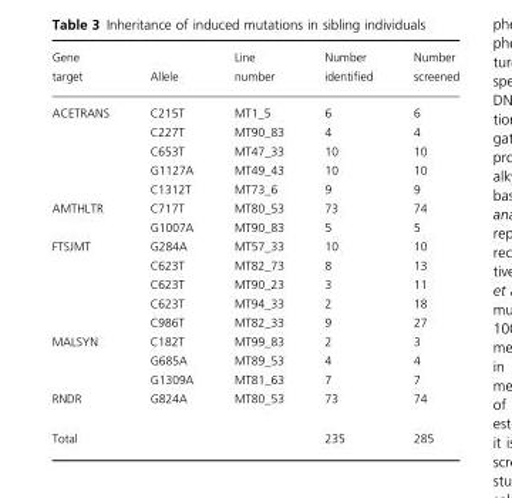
<table><thead><tr><td>Gene target</td><td>Allele</td><td>Line number</td><td>Number identified</td><td>Number screened</td></tr></thead><tbody><tr><td rowspan="5">ACETRANS</td><td>C215T</td><td>MT1_5</td><td>6</td><td>6</td></tr><tr><td>C227T</td><td>MT90_83</td><td>4</td><td>4</td></tr><tr><td>C653T</td><td>MT47_33</td><td>10</td><td>10</td></tr><tr><td>G1127A</td><td>MT49_43</td><td>10</td><td>10</td></tr><tr><td>C1312T</td><td>MT73_6</td><td>9</td><td>9</td></tr><tr><td rowspan="2">AMTHLTR</td><td>C717T</td><td>MT80_53</td><td>73</td><td>74</td></tr><tr><td>G1007A</td><td>MT90_83</td><td>5</td><td>5</td></tr><tr><td rowspan="5">FTSJMT</td><td>G284A</td><td>MT57_33</td><td>10</td><td>10</td></tr><tr><td>C623T</td><td>MT82_73</td><td>8</td><td>13</td></tr><tr><td>C623T</td><td>MT90_23</td><td>3</td><td>11</td></tr><tr><td>C623T</td><td>MT94_33</td><td>2</td><td>18</td></tr><tr><td>C986T</td><td>MT82_33</td><td>9</td><td>27</td></tr><tr><td rowspan="3">MALSYN</td><td>C182T</td><td>MT99_83</td><td>2</td><td>3</td></tr><tr><td>G685A</td><td>MT89_53</td><td>4</td><td>4</td></tr><tr><td>G1309A</td><td>MT81_63</td><td>7</td><td>7</td></tr><tr><td>RNDR</td><td>G824A</td><td>MT80_53</td><td>73</td><td>74</td></tr><tr><td>Total</td><td></td><td></td><td>235</td><td>285</td></tr></tbody></table>